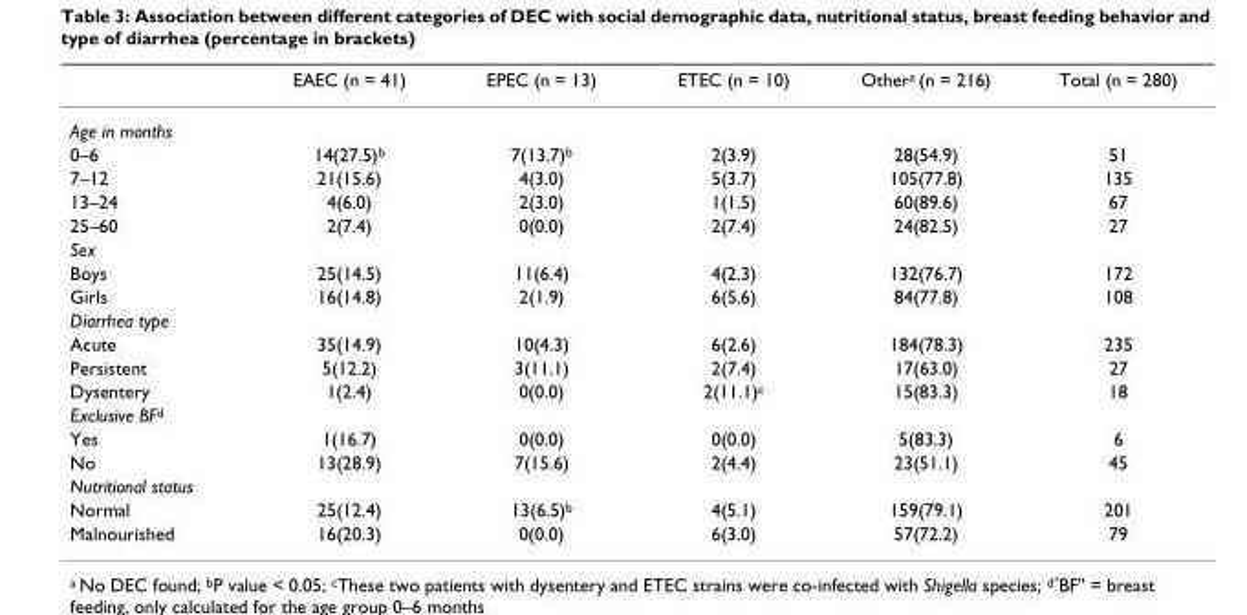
<table><thead><tr><td></td><td>EAEC (n = 41)</td><td>EPEC (n = 13)</td><td>ETEC (n = 10)</td><td>Other<sup>a</sup> (n = 216)</td><td>Total (n = 280)</td></tr></thead><tbody><tr><td colspan="6">Age in months</td></tr><tr><td>0–6</td><td>14(27.5)<sup>b</sup></td><td>7(13.7)<sup>b</sup></td><td>2(3.9)</td><td>28(54.9)</td><td>51</td></tr><tr><td>7–12</td><td>21(15.6)</td><td>4(3.0)</td><td>5(3.7)</td><td>105(77.8)</td><td>135</td></tr><tr><td>13–24</td><td>4(6.0)</td><td>2(3.0)</td><td>1(1.5)</td><td>60(89.6)</td><td>67</td></tr><tr><td>25–60</td><td>2(7.4)</td><td>0(0.0)</td><td>2(7.4)</td><td>24(82.5)</td><td>27</td></tr><tr><td colspan="6">Sex</td></tr><tr><td>Boys</td><td>25(14.5)</td><td>11(6.4)</td><td>4(2.3)</td><td>132(76.7)</td><td>172</td></tr><tr><td>Girls</td><td>16(14.8)</td><td>2(1.9)</td><td>6(5.6)</td><td>84(77.8)</td><td>108</td></tr><tr><td colspan="6">Diarrhea type</td></tr><tr><td>Acute</td><td>35(14.9)</td><td>10(4.3)</td><td>6(2.6)</td><td>184(78.3)</td><td>235</td></tr><tr><td>Persistent</td><td>5(12.2)</td><td>3(11.1)</td><td>2(7.4)</td><td>17(63.0)</td><td>27</td></tr><tr><td>Dysentery</td><td>1(2.4)</td><td>0(0.0)</td><td>2(11.1)<sup>c</sup></td><td>15(83.3)</td><td>18</td></tr><tr><td colspan="6">Exclusive BF<sup>d</sup></td></tr><tr><td>Yes</td><td>1(16.7)</td><td>0(0.0)</td><td>0(0.0)</td><td>5(83.3)</td><td>6</td></tr><tr><td>No</td><td>13(28.9)</td><td>7(15.6)</td><td>2(4.4)</td><td>23(51.1)</td><td>45</td></tr><tr><td colspan="6">Nutritional status</td></tr><tr><td>Normal</td><td>25(12.4)</td><td>13(6.5)<sup>b</sup></td><td>4(5.1)</td><td>159(79.1)</td><td>201</td></tr><tr><td>Malnourished</td><td>16(20.3)</td><td>0(0.0)</td><td>6(3.0)</td><td>57(72.2)</td><td>79</td></tr></tbody></table>